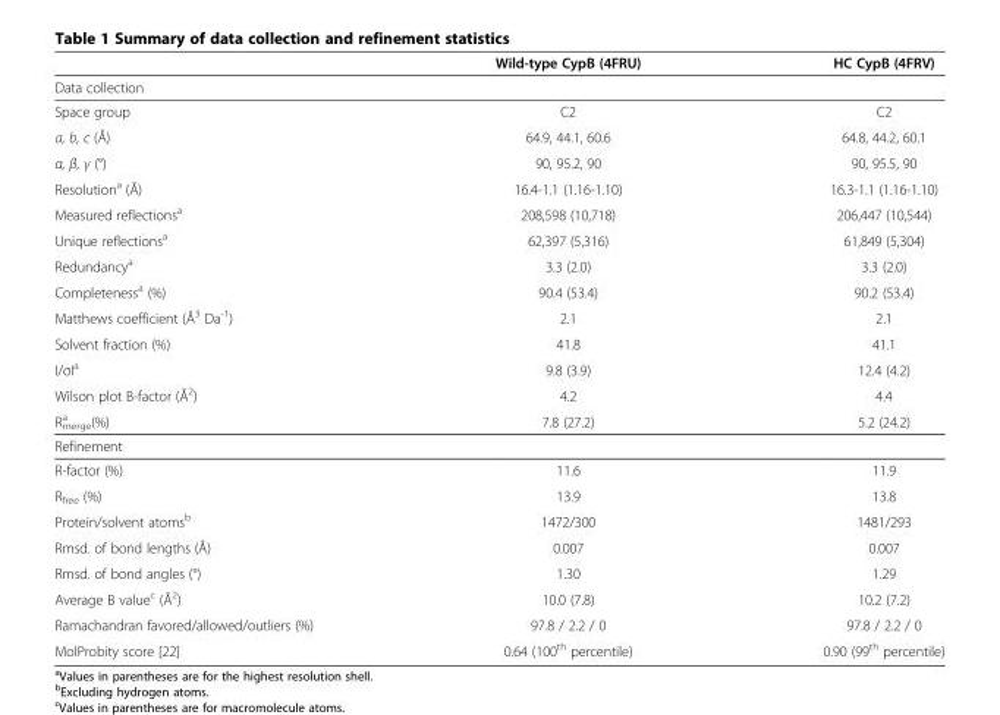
<table><thead><tr><td></td><td>Wild-type CypB (4FRU)</td><td>HC CypB (4FRV)</td></tr></thead><tbody><tr><td colspan="3">Data collection</td></tr><tr><td>Space group</td><td>C2</td><td>C2</td></tr><tr><td>a, b, c (Å)</td><td>64.9, 44.1, 60.6</td><td>64.8, 44.2, 60.1</td></tr><tr><td>α, β, γ (°)</td><td>90, 95.2, 90</td><td>90, 95.5, 90</td></tr><tr><td>Resolution<sup>a</sup> (Å)</td><td>16.4-1.1 (1.16-1.10)</td><td>16.3-1.1 (1.16-1.10)</td></tr><tr><td>Measured reflections<sup>a</sup></td><td>208,598 (10,718)</td><td>206,447 (10,544)</td></tr><tr><td>Unique reflections<sup>a</sup></td><td>62,397 (5,316)</td><td>61,849 (5,304)</td></tr><tr><td>Redundancy<sup>a</sup></td><td>3.3 (2.0)</td><td>3.3 (2.0)</td></tr><tr><td>Completeness<sup>a</sup> (%)</td><td>90.4 (53.4)</td><td>90.2 (53.4)</td></tr><tr><td>Matthews coefficient (Å<sup>3</sup> Da<sup>-1</sup>)</td><td>2.1</td><td>2.1</td></tr><tr><td>Solvent fraction (%)</td><td>41.8</td><td>41.1</td></tr><tr><td>I/σI<sup>a</sup></td><td>9.8 (3.9)</td><td>12.4 (4.2)</td></tr><tr><td>Wilson plot B-factor (Å<sup>2</sup>)</td><td>4.2</td><td>4.4</td></tr><tr><td>R<sub>merge</sub> <sup>a</sup> (%)</td><td>7.8 (27.2)</td><td>5.2 (24.2)</td></tr><tr><td colspan="3">Refinement</td></tr><tr><td>R-factor (%)</td><td>11.6</td><td>11.9</td></tr><tr><td>R<sub>free</sub> (%)</td><td>13.9</td><td>13.8</td></tr><tr><td>Protein/solvent atoms<sup>b</sup></td><td>1472/300</td><td>1481/293</td></tr><tr><td>Rmsd. of bond lengths (Å)</td><td>0.007</td><td>0.007</td></tr><tr><td>Rmsd. of bond angles (°)</td><td>1.30</td><td>1.29</td></tr><tr><td>Average B value<sup>c</sup> (Å<sup>2</sup>)</td><td>10.0 (7.8)</td><td>10.2 (7.2)</td></tr><tr><td>Ramachandran favored/allowed/outliers (%)</td><td>97.8 / 2.2 / 0</td><td>97.8 / 2.2 / 0</td></tr><tr><td>MolProbity score [22]</td><td>0.64 (100<sup>th</sup> percentile)</td><td>0.90 (99<sup>th</sup> percentile)</td></tr></tbody></table>